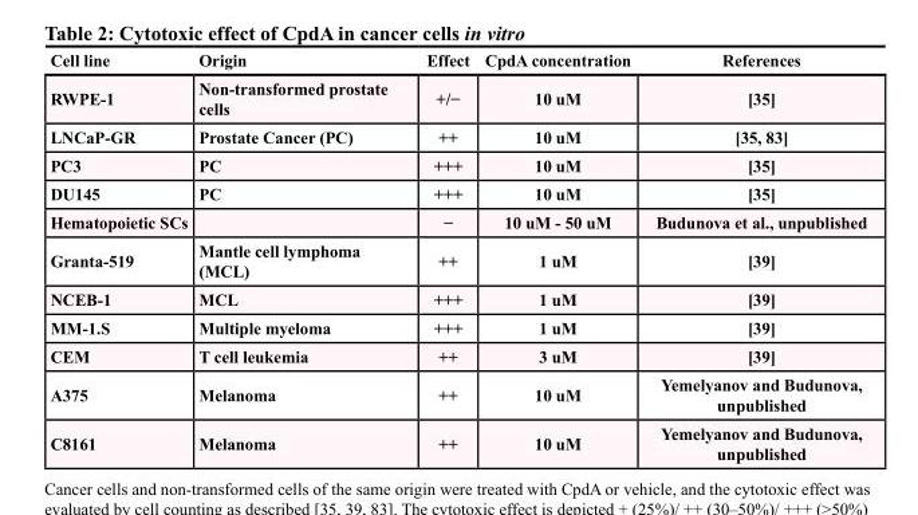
<table><thead><tr><td>Cell line</td><td>Origin</td><td>Effect</td><td>CpdA concentration</td><td>References</td></tr></thead><tbody><tr><td>RWPE-1</td><td>Non-transformed prostate cells</td><td>+/−</td><td>10 uM</td><td>[35]</td></tr><tr><td>LNCaP-GR</td><td>Prostate Cancer (PC)</td><td>++</td><td>10 uM</td><td>[35, 83]</td></tr><tr><td>PC3</td><td>PC</td><td>+++</td><td>10 uM</td><td>[35]</td></tr><tr><td>DU145</td><td>PC</td><td>+++</td><td>10 uM</td><td>[35]</td></tr><tr><td>Hematopoietic SCs</td><td></td><td>−</td><td>10 uM - 50 uM</td><td>Budunova et al., unpublished</td></tr><tr><td>Granta-519</td><td>Mantle cell lymphoma (MCL)</td><td>++</td><td>1 uM</td><td>[39]</td></tr><tr><td>NCEB-1</td><td>MCL</td><td>+++</td><td>1 uM</td><td>[39]</td></tr><tr><td>MM-1.S</td><td>Multiple myeloma</td><td>+++</td><td>1 uM</td><td>[39]</td></tr><tr><td>CEM</td><td>T cell leukemia</td><td>++</td><td>3 uM</td><td>[39]</td></tr><tr><td>A375</td><td>Melanoma</td><td>++</td><td>10 uM</td><td>Yemelyanov and Budunova, unpublished</td></tr><tr><td>C8161</td><td>Melanoma</td><td>++</td><td>10 uM</td><td>Yemelyanov and Budunova, unpublished</td></tr></tbody></table>